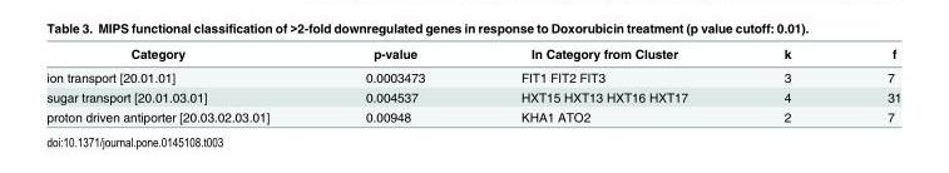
<table><thead><tr><td>Category</td><td>p-value</td><td>In Category from Cluster</td><td>k</td><td>f</td></tr></thead><tbody><tr><td>ion transport [20.01.01]</td><td>0.0003473</td><td>FIT1 FIT2 FIT3</td><td>3</td><td>7</td></tr><tr><td>sugar transport [20.01.03.01]</td><td>0.004537</td><td>HXT15 HXT13 HXT16 HXT17</td><td>4</td><td>31</td></tr><tr><td>proton driven antiporter [20.03.02.03.01]</td><td>0.00948</td><td>KHA1 ATO2</td><td>2</td><td>7</td></tr></tbody></table>